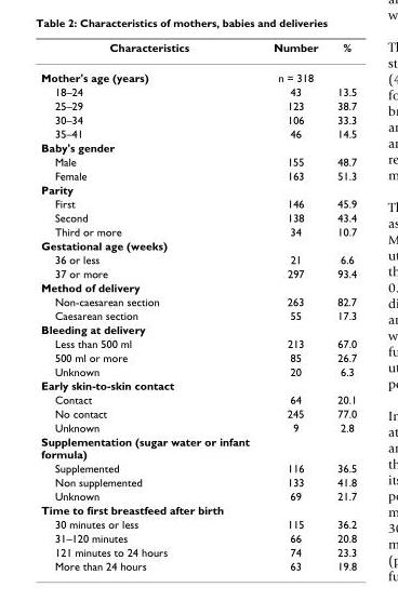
<table><thead><tr><td>Characteristics</td><td>Number</td><td>%</td></tr></thead><tbody><tr><td>Mother&#x27;s age (years)</td><td>n = 318</td><td></td></tr><tr><td>18–24</td><td>43</td><td>13.5</td></tr><tr><td>25–29</td><td>123</td><td>38.7</td></tr><tr><td>30–34</td><td>106</td><td>33.3</td></tr><tr><td>35–41</td><td>46</td><td>14.5</td></tr><tr><td colspan="3">Baby&#x27;s gender</td></tr><tr><td>Male</td><td>155</td><td>48.7</td></tr><tr><td>Female</td><td>163</td><td>51.3</td></tr><tr><td colspan="3">Parity</td></tr><tr><td>First</td><td>146</td><td>45.9</td></tr><tr><td>Second</td><td>138</td><td>43.4</td></tr><tr><td>Third or more</td><td>34</td><td>10.7</td></tr><tr><td colspan="3">Gestational age (weeks)</td></tr><tr><td>36 or less</td><td>21</td><td>6.6</td></tr><tr><td>37 or more</td><td>297</td><td>93.4</td></tr><tr><td colspan="3">Method of delivery</td></tr><tr><td>Non-caesarean section</td><td>263</td><td>82.7</td></tr><tr><td>Caesarean section</td><td>55</td><td>17.3</td></tr><tr><td colspan="3">Bleeding at delivery</td></tr><tr><td>Less than 500 ml</td><td>213</td><td>67.0</td></tr><tr><td>500 ml or more</td><td>85</td><td>26.7</td></tr><tr><td>Unknown</td><td>20</td><td>6.3</td></tr><tr><td colspan="3">Early skin-to-skin contact</td></tr><tr><td>Contact</td><td>64</td><td>20.1</td></tr><tr><td>No contact</td><td>245</td><td>77.0</td></tr><tr><td>Unknown</td><td>9</td><td>2.8</td></tr><tr><td colspan="3">Supplementation (sugar water or infant formula)</td></tr><tr><td>Supplemented</td><td>116</td><td>36.5</td></tr><tr><td>Non supplemented</td><td>133</td><td>41.8</td></tr><tr><td>Unknown</td><td>69</td><td>21.7</td></tr><tr><td colspan="3">Time to first breastfeed after birth</td></tr><tr><td>30 minutes or less</td><td>115</td><td>36.2</td></tr><tr><td>31–120 minutes</td><td>66</td><td>20.8</td></tr><tr><td>121 minutes to 24 hours</td><td>74</td><td>23.3</td></tr><tr><td>More than 24 hours</td><td>63</td><td>19.8</td></tr></tbody></table>